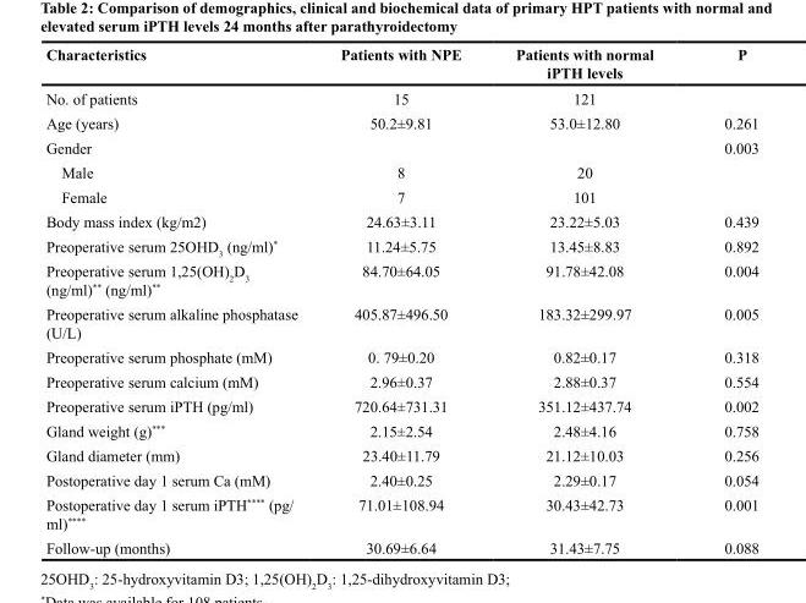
<table><thead><tr><td>Characteristics</td><td>Patients with NPE</td><td>Patients with normal iPTH levels</td><td>P</td></tr></thead><tbody><tr><td>No. of patients</td><td>15</td><td>121</td><td></td></tr><tr><td>Age (years)</td><td>50.2±9.81</td><td>53.0±12.80</td><td>0.261</td></tr><tr><td>Gender</td><td></td><td></td><td>0.003</td></tr><tr><td>Male</td><td>8</td><td>20</td><td></td></tr><tr><td>Female</td><td>7</td><td>101</td><td></td></tr><tr><td>Body mass index (kg/m2)</td><td>24.63±3.11</td><td>23.22±5.03</td><td>0.439</td></tr><tr><td>Preoperative serum 25OHD<sub>3</sub> (ng/ml)*</td><td>11.24±5.75</td><td>13.45±8.83</td><td>0.892</td></tr><tr><td>Preoperative serum 1,25(OH)<sub>2</sub>D<sub>3</sub> (ng/ml)** (ng/ml)**</td><td>84.70±64.05</td><td>91.78±42.08</td><td>0.004</td></tr><tr><td>Preoperative serum alkaline phosphatase (U/L)</td><td>405.87±496.50</td><td>183.32±299.97</td><td>0.005</td></tr><tr><td>Preoperative serum phosphate (mM)</td><td>0. 79±0.20</td><td>0.82±0.17</td><td>0.318</td></tr><tr><td>Preoperative serum calcium (mM)</td><td>2.96±0.37</td><td>2.88±0.37</td><td>0.554</td></tr><tr><td>Preoperative serum iPTH (pg/ml)</td><td>720.64±731.31</td><td>351.12±437.74</td><td>0.002</td></tr><tr><td>Gland weight (g)***</td><td>2.15±2.54</td><td>2.48±4.16</td><td>0.758</td></tr><tr><td>Gland diameter (mm)</td><td>23.40±11.79</td><td>21.12±10.03</td><td>0.256</td></tr><tr><td>Postoperative day 1 serum Ca (mM)</td><td>2.40±0.25</td><td>2.29±0.17</td><td>0.054</td></tr><tr><td>Postoperative day 1 serum iPTH**** (pg/ ml)****</td><td>71.01±108.94</td><td>30.43±42.73</td><td>0.001</td></tr><tr><td>Follow-up (months)</td><td>30.69±6.64</td><td>31.43±7.75</td><td>0.088</td></tr></tbody></table>